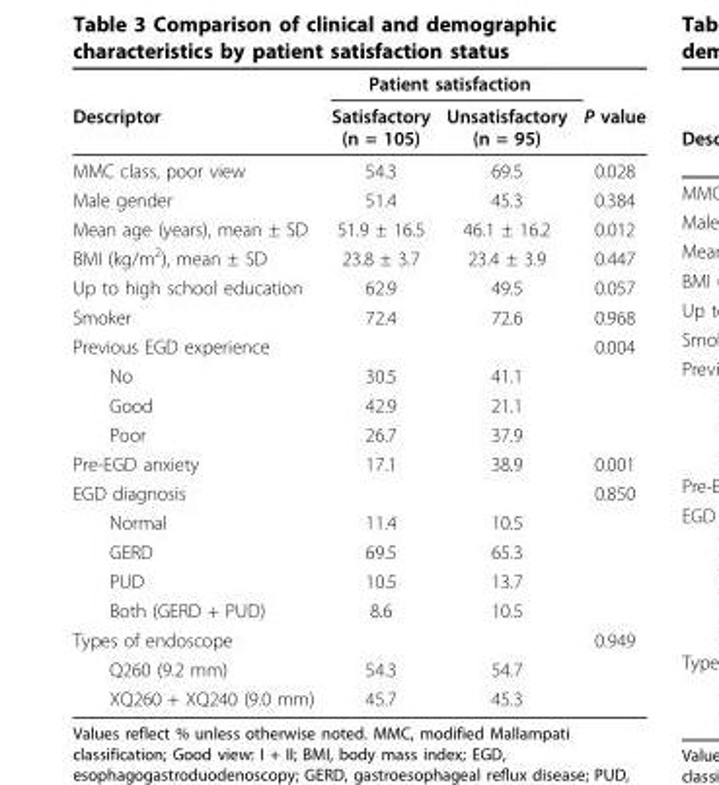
<table><thead><tr><td rowspan="2">Descriptor</td><td colspan="2">Patient satisfaction</td><td rowspan="2">P value</td></tr><tr><td>Satisfactory (n = 105)</td><td>Unsatisfactory (n = 95)</td></tr></thead><tbody><tr><td>MMC class, poor view</td><td>54.3</td><td>69.5</td><td>0.028</td></tr><tr><td>Male gender</td><td>51.4</td><td>45.3</td><td>0.384</td></tr><tr><td>Mean age (years), mean ± SD</td><td>51.9 ± 16.5</td><td>46.1 ± 16.2</td><td>0.012</td></tr><tr><td>BMI (kg/m<sup>2</sup>), mean ± SD</td><td>23.8 ± 3.7</td><td>23.4 ± 3.9</td><td>0.447</td></tr><tr><td>Up to high school education</td><td>62.9</td><td>49.5</td><td>0.057</td></tr><tr><td>Smoker</td><td>72.4</td><td>72.6</td><td>0.968</td></tr><tr><td>Previous EGD experience</td><td></td><td></td><td>0.004</td></tr><tr><td>No</td><td>30.5</td><td>41.1</td><td></td></tr><tr><td>Good</td><td>42.9</td><td>21.1</td><td></td></tr><tr><td>Poor</td><td>26.7</td><td>37.9</td><td></td></tr><tr><td>Pre-EGD anxiety</td><td>17.1</td><td>38.9</td><td>0.001</td></tr><tr><td>EGD diagnosis</td><td></td><td></td><td>0.850</td></tr><tr><td>Normal</td><td>11.4</td><td>10.5</td><td></td></tr><tr><td>GERD</td><td>69.5</td><td>65.3</td><td></td></tr><tr><td>PUD</td><td>10.5</td><td>13.7</td><td></td></tr><tr><td>Both (GERD + PUD)</td><td>8.6</td><td>10.5</td><td></td></tr><tr><td>Types of endoscope</td><td></td><td></td><td>0.949</td></tr><tr><td>Q260 (9.2 mm)</td><td>54.3</td><td>54.7</td><td></td></tr><tr><td>XQ260 + XQ240 (9.0 mm)</td><td>45.7</td><td>45.3</td><td></td></tr></tbody></table>